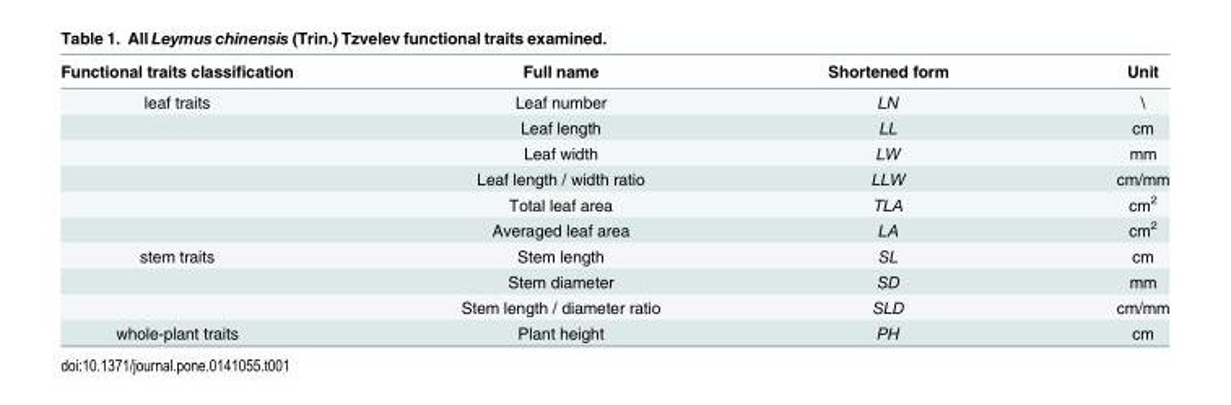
<table><thead><tr><td>Functional traits classification</td><td>Full name</td><td>Shortened form</td><td>Unit</td></tr></thead><tbody><tr><td rowspan="6">leaf traits</td><td>Leaf number</td><td>LN</td><td>\</td></tr><tr><td>Leaf length</td><td>LL</td><td>cm</td></tr><tr><td>Leaf width</td><td>LW</td><td>mm</td></tr><tr><td>Leaf length / width ratio</td><td>LLW</td><td>cm/mm</td></tr><tr><td>Total leaf area</td><td>TLA</td><td>cm<sup>2</sup></td></tr><tr><td>Averaged leaf area</td><td>LA</td><td>cm<sup>2</sup></td></tr><tr><td rowspan="3">stem traits</td><td>Stem length</td><td>SL</td><td>cm</td></tr><tr><td>Stem diameter</td><td>SD</td><td>mm</td></tr><tr><td>Stem length / diameter ratio</td><td>SLD</td><td>cm/mm</td></tr><tr><td>whole-plant traits</td><td>Plant height</td><td>PH</td><td>cm</td></tr></tbody></table>